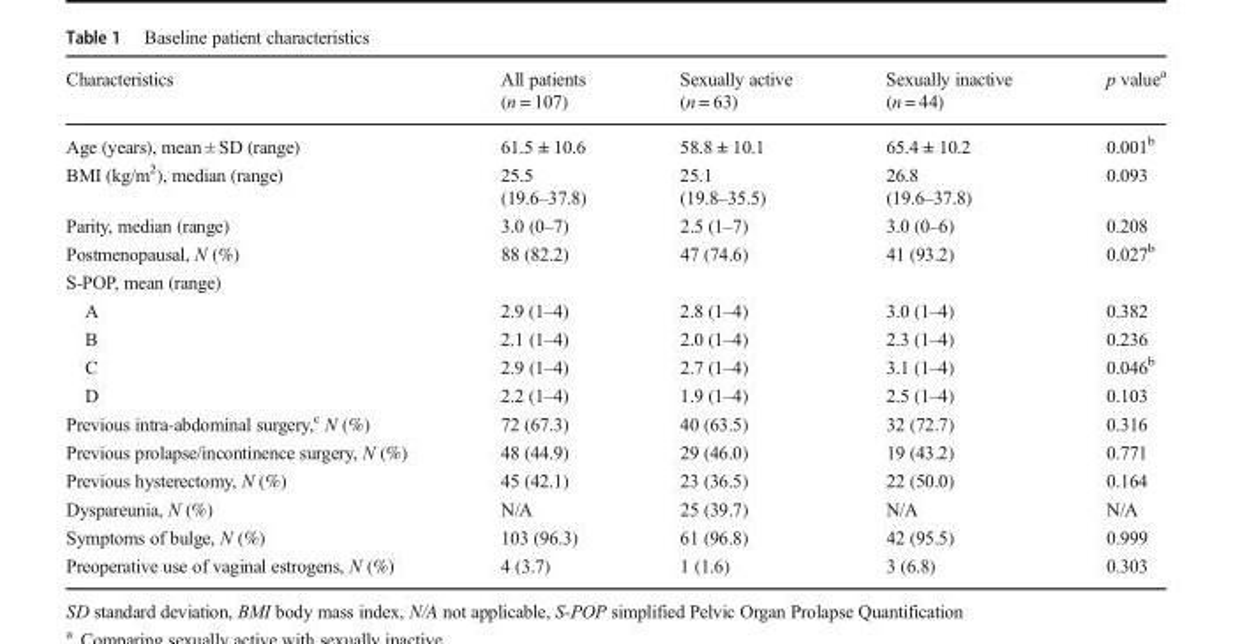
<table><thead><tr><td rowspan="2">Characteristics</td><td rowspan="2">All patients (n = 107)</td><td rowspan="2">Sexually active (n = 63)</td><td rowspan="2">Sexually inactive (n = 44)</td><td rowspan="2">p value<sup>a</sup></td></tr><tr></tr></thead><tbody><tr><td>Age (years), mean ± SD (range)</td><td>61.5 ± 10.6</td><td>58.8 ± 10.1</td><td>65.4 ± 10.2</td><td>0.001<sup>b</sup></td></tr><tr><td rowspan="2">BMI (kg/m<sup>2</sup>), median (range)</td><td>25.5</td><td>25.1</td><td>26.8</td><td rowspan="2">0.093</td></tr><tr><td>(19.6–37.8)</td><td>(19.8–35.5)</td><td>(19.6–37.8)</td></tr><tr><td>Parity, median (range)</td><td>3.0 (0–7)</td><td>2.5 (1–7)</td><td>3.0 (0–6)</td><td>0.208</td></tr><tr><td>Postmenopausal, N (%)</td><td>88 (82.2)</td><td>47 (74.6)</td><td>41 (93.2)</td><td>0.027<sup>b</sup></td></tr><tr><td colspan="5">S-POP, mean (range)</td></tr><tr><td>A</td><td>2.9 (1–4)</td><td>2.8 (1–4)</td><td>3.0 (1–4)</td><td>0.382</td></tr><tr><td>B</td><td>2.1 (1–4)</td><td>2.0 (1–4)</td><td>2.3 (1–4)</td><td>0.236</td></tr><tr><td>C</td><td>2.9 (1–4)</td><td>2.7 (1–4)</td><td>3.1 (1–4)</td><td>0.046<sup>b</sup></td></tr><tr><td>D</td><td>2.2 (1–4)</td><td>1.9 (1–4)</td><td>2.5 (1–4)</td><td>0.103</td></tr><tr><td>Previous intra-abdominal surgery,<sup>c</sup> N (%)</td><td>72 (67.3)</td><td>40 (63.5)</td><td>32 (72.7)</td><td>0.316</td></tr><tr><td>Previous prolapse/incontinence surgery, N (%)</td><td>48 (44.9)</td><td>29 (46.0)</td><td>19 (43.2)</td><td>0.771</td></tr><tr><td>Previous hysterectomy, N (%)</td><td>45 (42.1)</td><td>23 (36.5)</td><td>22 (50.0)</td><td>0.164</td></tr><tr><td>Dyspareunia, N (%)</td><td>N/A</td><td>25 (39.7)</td><td>N/A</td><td>N/A</td></tr><tr><td>Symptoms of bulge, N (%)</td><td>103 (96.3)</td><td>61 (96.8)</td><td>42 (95.5)</td><td>0.999</td></tr><tr><td>Preoperative use of vaginal estrogens, N (%)</td><td>4 (3.7)</td><td>1 (1.6)</td><td>3 (6.8)</td><td>0.303</td></tr></tbody></table>